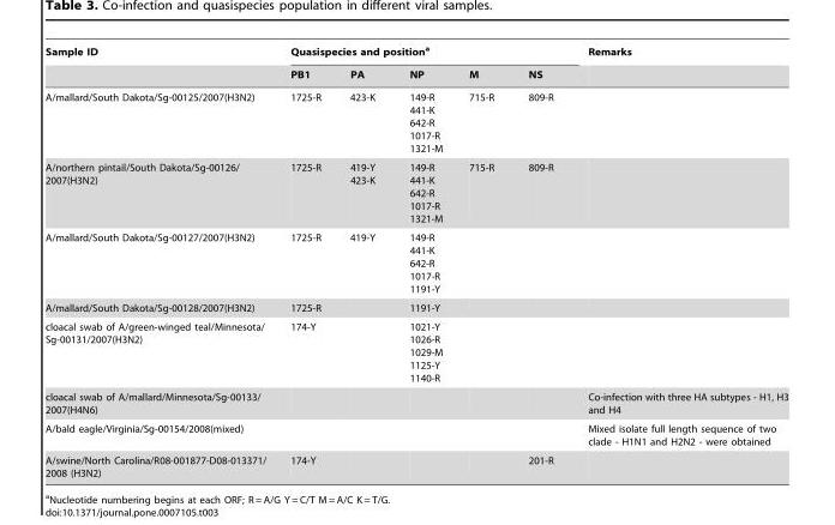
<table><thead><tr><td rowspan="2">Sample ID</td><td colspan="5">Quasispecies and position<sup>a</sup></td><td rowspan="2">Remarks</td></tr><tr><td>PB1</td><td>PA</td><td>NP</td><td>M</td><td>NS</td></tr></thead><tbody><tr><td>A/mallard/South Dakota/Sg-00125/2007(H3N2)</td><td>1725-R</td><td>423-K</td><td>149-R 441-K 642-R 1017-R 1321-M</td><td>715-R</td><td>809-R</td><td></td></tr><tr><td>A/northern pintail/South Dakota/Sg-00126/ 2007(H3N2)</td><td>1725-R</td><td>419-Y 423-K</td><td>149-R 441-K 642-R 1017-R 1321-M</td><td>715-R</td><td>809-R</td><td></td></tr><tr><td>A/mallard/South Dakota/Sg-00127/2007(H3N2)</td><td>1725-R</td><td>419-Y</td><td>149-R 441-K 642-R 1017-R 1191-Y</td><td></td><td></td><td></td></tr><tr><td>A/mallard/South Dakota/Sg-00128/2007(H3N2)</td><td>1725-R</td><td></td><td>1191-Y</td><td></td><td></td><td></td></tr><tr><td>cloacal swab of A/green-winged teal/Minnesota/ Sg-00131/2007(H3N2)</td><td>174-Y</td><td></td><td>1021-Y 1026-R 1029-M 1125-Y 1140-R</td><td></td><td></td><td></td></tr><tr><td>cloacal swab of A/mallard/Minnesota/Sg-00133/ 2007(H4N6)</td><td></td><td></td><td></td><td></td><td></td><td>Co-infection with three HA subtypes - H1, H3 and H4</td></tr><tr><td>A/bald eagle/Virginia/Sg-00154/2008(mixed)</td><td></td><td></td><td></td><td></td><td></td><td>Mixed isolate full length sequence of two clade - H1N1 and H2N2 - were obtained</td></tr><tr><td>A/swine/North Carolina/R08-001877-D08-013371/ 2008 (H3N2)</td><td>174-Y</td><td></td><td></td><td></td><td>201-R</td><td></td></tr></tbody></table>